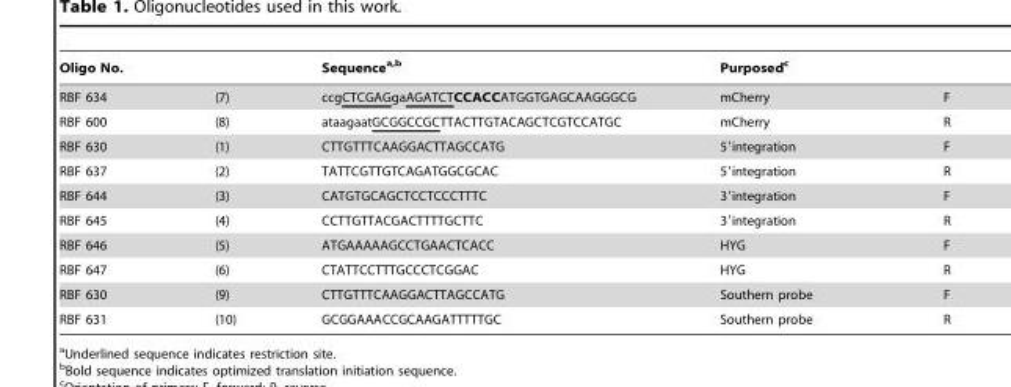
<table><thead><tr><td colspan="2">Oligo No.</td><td rowspan="2">Sequence<sup>a,</sup>b ccgCTCGAGgaAGATCTCCACCATGGTGAGCAAGGGCG</td><td colspan="2">Purposed<sup>c</sup></td></tr><tr><td>RBF 634</td><td>(7)</td><td>mCherry</td><td>F</td></tr></thead><tbody><tr><td>RBF 600</td><td>(8)</td><td>ataagaatGCGGCCGCTTACTTGTACAGCTCGTCCATGC</td><td>mCherry</td><td>R</td></tr><tr><td>RBF 630</td><td>(1)</td><td>CTTGTTTCAAGGACTTAGCCATG</td><td>5′integration</td><td>F</td></tr><tr><td>RBF 637</td><td>(2)</td><td>TATTCGTTGTCAGATGGCGCAC</td><td>5′integration</td><td>R</td></tr><tr><td>RBF 644</td><td>(3)</td><td>CATGTGCAGCTCCTCCCTTTC</td><td>3′integration</td><td>F</td></tr><tr><td>RBF 645</td><td>(4)</td><td>CCTTGTTACGACTTTTGCTTC</td><td>3′integration</td><td>R</td></tr><tr><td>RBF 646</td><td>(5)</td><td>ATGAAAAAGCCTGAACTCACC</td><td>HYG</td><td>F</td></tr><tr><td>RBF 647</td><td>(6)</td><td>CTATTCCTTTGCCCTCGGAC</td><td>HYG</td><td>R</td></tr><tr><td>RBF 630</td><td>(9)</td><td>CTTGTTTCAAGGACTTAGCCATG</td><td>Southern probe</td><td>F</td></tr><tr><td>RBF 631</td><td>(10)</td><td>GCGGAAACCGCAAGATTTTTGC</td><td>Southern probe</td><td>R</td></tr></tbody></table>